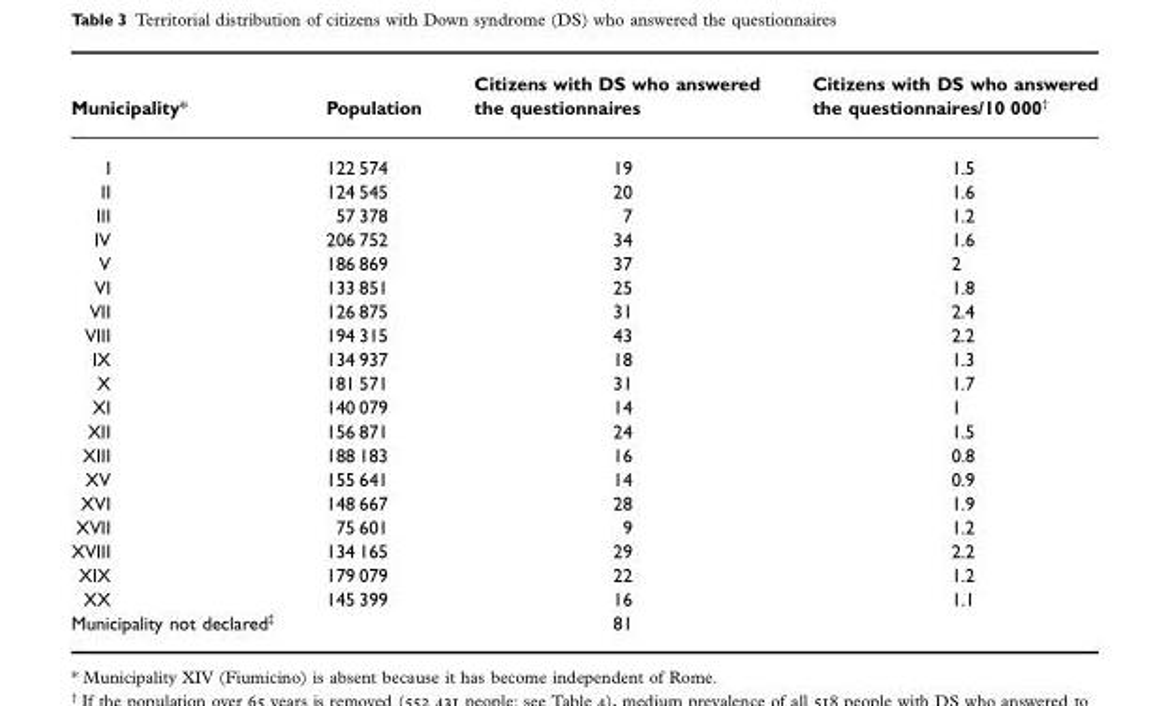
<table><thead><tr><td>Municipality*</td><td>Population</td><td>Citizens with DS who answered the questionnaires</td><td>Citizens with DS who answered the questionnaires/10 000†</td></tr></thead><tbody><tr><td>I</td><td>122 574</td><td>19</td><td>1.5</td></tr><tr><td>II</td><td>124 545</td><td>20</td><td>1.6</td></tr><tr><td>III</td><td>57 378</td><td>7</td><td>1.2</td></tr><tr><td>IV</td><td>206 752</td><td>34</td><td>1.6</td></tr><tr><td>V</td><td>186 869</td><td>37</td><td>2</td></tr><tr><td>VI</td><td>133 851</td><td>25</td><td>1.8</td></tr><tr><td>VII</td><td>126 875</td><td>31</td><td>2.4</td></tr><tr><td>VIII</td><td>194 315</td><td>43</td><td>2.2</td></tr><tr><td>IX</td><td>134 937</td><td>18</td><td>1.3</td></tr><tr><td>X</td><td>181 571</td><td>31</td><td>1.7</td></tr><tr><td>XI</td><td>140 079</td><td>14</td><td>1</td></tr><tr><td>XII</td><td>156 871</td><td>24</td><td>1.5</td></tr><tr><td>XIII</td><td>188 183</td><td>16</td><td>0.8</td></tr><tr><td>XV</td><td>155 641</td><td>14</td><td>0.9</td></tr><tr><td>XVI</td><td>148 667</td><td>28</td><td>1.9</td></tr><tr><td>XVII</td><td>75 601</td><td>9</td><td>1.2</td></tr><tr><td>XVIII</td><td>134 165</td><td>29</td><td>2.2</td></tr><tr><td>XIX</td><td>179 079</td><td>22</td><td>1.2</td></tr><tr><td>XX</td><td>145 399</td><td>16</td><td>1.1</td></tr><tr><td>Municipality not declared‡</td><td></td><td>81</td><td></td></tr></tbody></table>